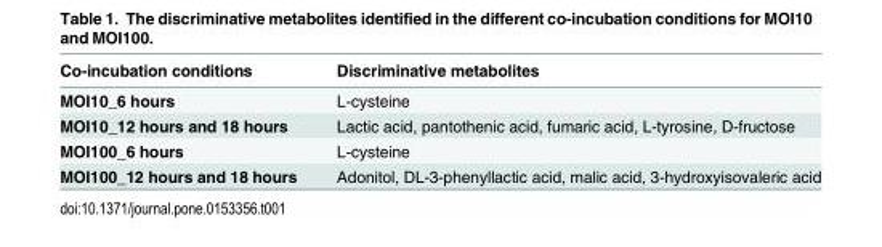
<table><thead><tr><td>Co-incubation conditions</td><td>Discriminative metabolites</td></tr></thead><tbody><tr><td>MOI10_6 hours</td><td>L-cysteine</td></tr><tr><td>MOI10_12 hours and 18 hours</td><td>Lactic acid, pantothenic acid, fumaric acid, L-tyrosine, D-fructose</td></tr><tr><td>MOI100_6 hours</td><td>L-cysteine</td></tr><tr><td>MOI100_12 hours and 18 hours</td><td>Adonitol, DL-3-phenyllactic acid, malic acid, 3-hydroxyisovaleric acid</td></tr></tbody></table>